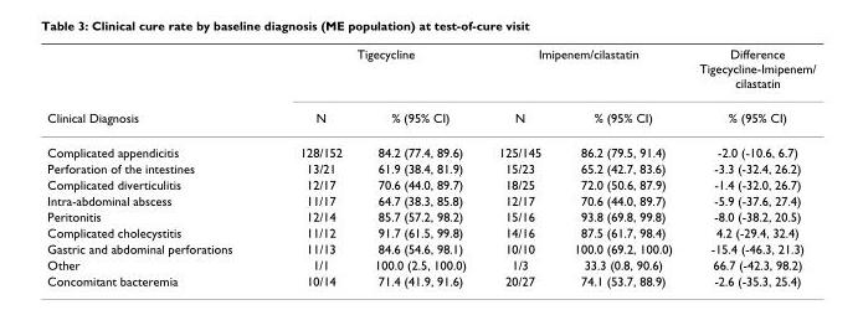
<table><thead><tr><td rowspan="2">Clinical Diagnosis</td><td colspan="2">Tigecycline</td><td colspan="2">Imipenem/cilastatin</td><td rowspan="2">Difference Tigecycline-Imipenem/ cilastatin % (95% CI)</td></tr><tr><td>N</td><td>% (95% CI)</td><td>N</td><td>% (95% CI)</td></tr></thead><tbody><tr><td>Complicated appendicitis</td><td>128/152</td><td>84.2 (77.4, 89.6)</td><td>125/145</td><td>86.2 (79.5, 91.4)</td><td>-2.0 (-10.6, 6.7)</td></tr><tr><td>Perforation of the intestines</td><td>13/21</td><td>61.9 (38.4, 81.9)</td><td>15/23</td><td>65.2 (42.7, 83.6)</td><td>-3.3 (-32.4, 26.2)</td></tr><tr><td>Complicated diverticulitis</td><td>12/17</td><td>70.6 (44.0, 89.7)</td><td>18/25</td><td>72.0 (50.6, 87.9)</td><td>-1.4 (-32.0, 26.7)</td></tr><tr><td>Intra-abdominal abscess</td><td>11/17</td><td>64.7 (38.3, 85.8)</td><td>12/17</td><td>70.6 (44.0, 89.7)</td><td>-5.9 (-37.6, 27.4)</td></tr><tr><td>Peritonitis</td><td>12/14</td><td>85.7 (57.2, 98.2)</td><td>15/16</td><td>93.8 (69.8, 99.8)</td><td>-8.0 (-38.2, 20.5)</td></tr><tr><td>Complicated cholecystitis</td><td>11/12</td><td>91.7 (61.5, 99.8)</td><td>14/16</td><td>87.5 (61.7, 98.4)</td><td>4.2 (-29.4, 32.4)</td></tr><tr><td>Gastric and abdominal perforations</td><td>11/13</td><td>84.6 (54.6, 98.1)</td><td>10/10</td><td>100.0 (69.2, 100.0)</td><td>-15.4 (-46.3, 21.3)</td></tr><tr><td>Other</td><td>1/1</td><td>100.0 (2.5, 100.0)</td><td>1/3</td><td>33.3 (0.8, 90.6)</td><td>66.7 (-42.3, 98.2)</td></tr><tr><td>Concomitant bacteremia</td><td>10/14</td><td>71.4 (41.9, 91.6)</td><td>20/27</td><td>74.1 (53.7, 88.9)</td><td>-2.6 (-35.3, 25.4)</td></tr></tbody></table>